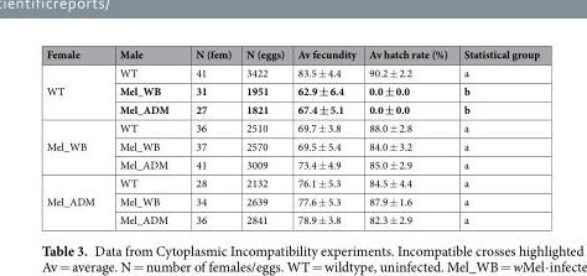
<table><thead><tr><td>Female</td><td>Male</td><td>N (fem)</td><td>N (eggs)</td><td>Av fecundity</td><td>Av hatch rate (%)</td><td>Statistical group</td></tr></thead><tbody><tr><td rowspan="3">WT</td><td>WT</td><td>41</td><td>3422</td><td>83.5 ± 4.4</td><td>90.2 ± 2.2</td><td>a</td></tr><tr><td>Mel_WB</td><td>31</td><td>1951</td><td>62.9 ± 6.4</td><td>0.0 ± 0.0</td><td>b</td></tr><tr><td>Mel_ADM</td><td>27</td><td>1821</td><td>67.4 ± 5.1</td><td>0.0 ± 0.0</td><td>b</td></tr><tr><td rowspan="3">Mel_WB</td><td>WT</td><td>36</td><td>2510</td><td>69.7 ± 3.8</td><td>88.0 ± 2.8</td><td>a</td></tr><tr><td>Mel_WB</td><td>37</td><td>2570</td><td>69.5 ± 5.4</td><td>84.0 ± 3.2</td><td>a</td></tr><tr><td>Mel_ADM</td><td>41</td><td>3009</td><td>73.4 ± 4.9</td><td>85.0 ± 2.9</td><td>a</td></tr><tr><td rowspan="3">Mel_ADM</td><td>WT</td><td>28</td><td>2132</td><td>76.1 ± 5.3</td><td>84.5 ± 4.4</td><td>a</td></tr><tr><td>Mel_WB</td><td>34</td><td>2639</td><td>77.6 ± 5.3</td><td>87.9 ± 1.6</td><td>a</td></tr><tr><td>Mel_ADM</td><td>36</td><td>2841</td><td>78.9 ± 3.8</td><td>82.3 ± 2.9</td><td>a</td></tr></tbody></table>